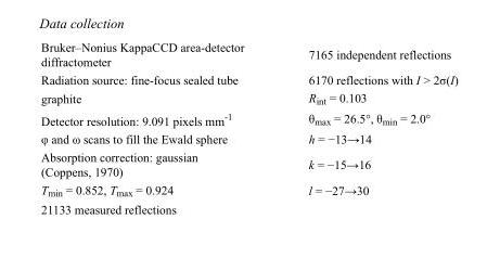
<table><tbody><tr><td>Bruker–Nonius KappaCCD area-detector diffractometer</td><td>7165 independent reflections</td></tr><tr><td>Radiation source: fine-focus sealed tube</td><td>6170 reflections with I &gt; 2σ(I)</td></tr><tr><td>graphite</td><td>R<sub>int</sub> = 0.103</td></tr><tr><td>Detector resolution: 9.091 pixels mm<sup>-1</sup></td><td>θ<sub>max</sub> = 26.5°, θ<sub>min</sub> = 2.0°</td></tr><tr><td>φ and ω scans to fill the Ewald sphere</td><td>h = −13→14</td></tr><tr><td>Absorption correction: gaussian (Coppens, 1970)</td><td>k = −15→16</td></tr><tr><td>T<sub>min</sub> = 0.852, T<sub>max</sub> = 0.924</td><td>l = −27→30</td></tr><tr><td>21133 measured reflections</td><td></td></tr></tbody></table>